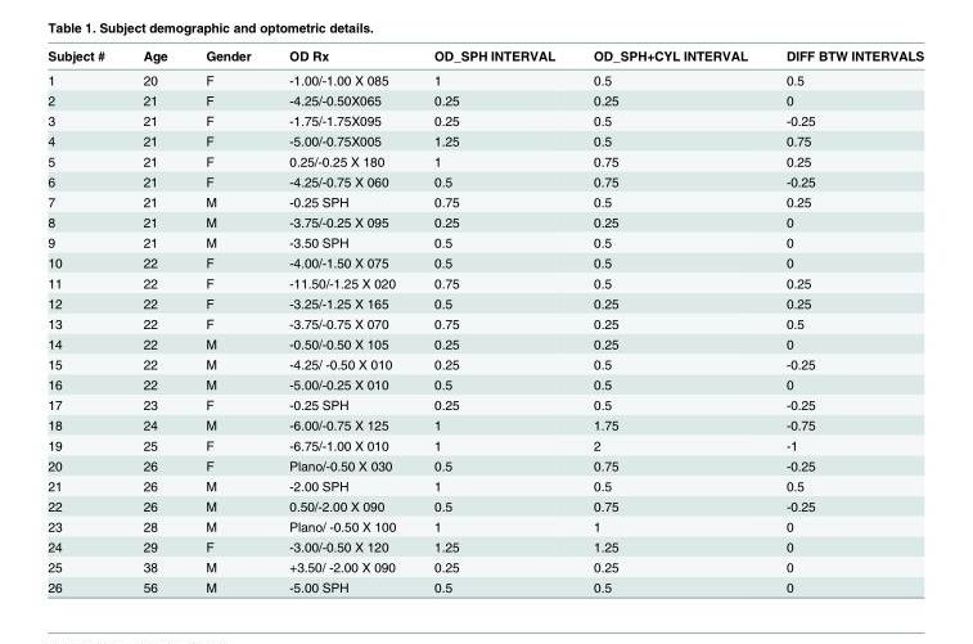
<table><thead><tr><td>Subject #</td><td>Age</td><td>Gender</td><td>OD Rx</td><td>OD_SPH INTERVAL</td><td>OD_SPH+CYL INTERVAL</td><td>DIFF BTW INTERVALS</td></tr></thead><tbody><tr><td>1</td><td>20</td><td>F</td><td>-1.00/-1.00 X 085</td><td>1</td><td>0.5</td><td>0.5</td></tr><tr><td>2</td><td>21</td><td>F</td><td>-4.25/-0.50X065</td><td>0.25</td><td>0.25</td><td>0</td></tr><tr><td>3</td><td>21</td><td>F</td><td>-1.75/-1.75X095</td><td>0.25</td><td>0.5</td><td>-0.25</td></tr><tr><td>4</td><td>21</td><td>F</td><td>-5.00/-0.75X005</td><td>1.25</td><td>0.5</td><td>0.75</td></tr><tr><td>5</td><td>21</td><td>F</td><td>0.25/-0.25 X 180</td><td>1</td><td>0.75</td><td>0.25</td></tr><tr><td>6</td><td>21</td><td>F</td><td>-4.25/-0.75 X 060</td><td>0.5</td><td>0.75</td><td>-0.25</td></tr><tr><td>7</td><td>21</td><td>M</td><td>-0.25 SPH</td><td>0.75</td><td>0.5</td><td>0.25</td></tr><tr><td>8</td><td>21</td><td>M</td><td>-3.75/-0.25 X 095</td><td>0.25</td><td>0.25</td><td>0</td></tr><tr><td>9</td><td>21</td><td>M</td><td>-3.50 SPH</td><td>0.5</td><td>0.5</td><td>0</td></tr><tr><td>10</td><td>22</td><td>F</td><td>-4.00/-1.50 X 075</td><td>0.5</td><td>0.5</td><td>0</td></tr><tr><td>11</td><td>22</td><td>F</td><td>-11.50/-1.25 X 020</td><td>0.75</td><td>0.5</td><td>0.25</td></tr><tr><td>12</td><td>22</td><td>F</td><td>-3.25/-1.25 X 165</td><td>0.5</td><td>0.25</td><td>0.25</td></tr><tr><td>13</td><td>22</td><td>F</td><td>-3.75/-0.75 X 070</td><td>0.75</td><td>0.25</td><td>0.5</td></tr><tr><td>14</td><td>22</td><td>M</td><td>-0.50/-0.50 X 105</td><td>0.25</td><td>0.25</td><td>0</td></tr><tr><td>15</td><td>22</td><td>M</td><td>-4.25/ -0.50 X 010</td><td>0.25</td><td>0.5</td><td>-0.25</td></tr><tr><td>16</td><td>22</td><td>M</td><td>-5.00/-0.25 X 010</td><td>0.5</td><td>0.5</td><td>0</td></tr><tr><td>17</td><td>23</td><td>F</td><td>-0.25 SPH</td><td>0.25</td><td>0.5</td><td>-0.25</td></tr><tr><td>18</td><td>24</td><td>M</td><td>-6.00/-0.75 X 125</td><td>1</td><td>1.75</td><td>-0.75</td></tr><tr><td>19</td><td>25</td><td>F</td><td>-6.75/-1.00 X 010</td><td>1</td><td>2</td><td>-1</td></tr><tr><td>20</td><td>26</td><td>F</td><td>Plano/-0.50 X 030</td><td>0.5</td><td>0.75</td><td>-0.25</td></tr><tr><td>21</td><td>26</td><td>M</td><td>-2.00 SPH</td><td>1</td><td>0.5</td><td>0.5</td></tr><tr><td>22</td><td>26</td><td>M</td><td>0.50/-2.00 X 090</td><td>0.5</td><td>0.75</td><td>-0.25</td></tr><tr><td>23</td><td>28</td><td>M</td><td>Plano/ -0.50 X 100</td><td>1</td><td>1</td><td>0</td></tr><tr><td>24</td><td>29</td><td>F</td><td>-3.00/-0.50 X 120</td><td>1.25</td><td>1.25</td><td>0</td></tr><tr><td>25</td><td>38</td><td>M</td><td>+3.50/ -2.00 X 090</td><td>0.25</td><td>0.25</td><td>0</td></tr><tr><td>26</td><td>56</td><td>M</td><td>-5.00 SPH</td><td>0.5</td><td>0.5</td><td>0</td></tr></tbody></table>